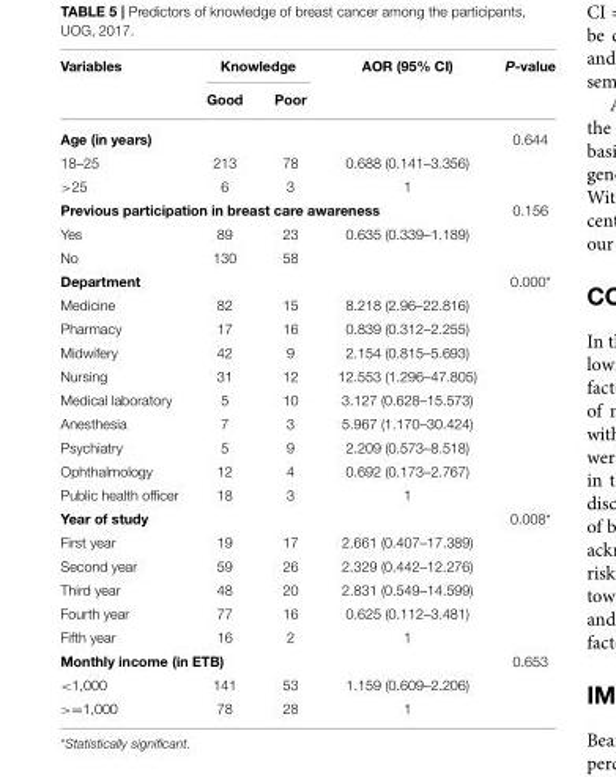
<table><thead><tr><td rowspan="2">Variables</td><td colspan="2">Knowledge</td><td rowspan="2">AOR (95% CI)</td><td rowspan="2">P-value</td></tr><tr><td>Good</td><td>Poor</td></tr></thead><tbody><tr><td colspan="4">Age (in years)</td><td>0.644</td></tr><tr><td>18–25</td><td>213</td><td>78</td><td>0.688 (0.141–3.356)</td><td></td></tr><tr><td>&gt;25</td><td>6</td><td>3</td><td>1</td><td></td></tr><tr><td colspan="4">Previous participation in breast care awareness</td><td>0.156</td></tr><tr><td>Yes</td><td>89</td><td>23</td><td>0.635 (0.339–1.189)</td><td></td></tr><tr><td>No</td><td>130</td><td>58</td><td></td><td></td></tr><tr><td colspan="4">Department</td><td>0.000*</td></tr><tr><td>Medicine</td><td>82</td><td>15</td><td>8.218 (2.96–22.816)</td><td></td></tr><tr><td>Pharmacy</td><td>17</td><td>16</td><td>0.839 (0.312–2.255)</td><td></td></tr><tr><td>Midwifery</td><td>42</td><td>9</td><td>2.154 (0.815–5.693)</td><td></td></tr><tr><td>Nursing</td><td>31</td><td>12</td><td>12.553 (1.296–47.805)</td><td></td></tr><tr><td>Medical laboratory</td><td>5</td><td>10</td><td>3.127 (0.628–15.573)</td><td></td></tr><tr><td>Anesthesia</td><td>7</td><td>3</td><td>5.967 (1.170–30.424)</td><td></td></tr><tr><td>Psychiatry</td><td>5</td><td>9</td><td>2.209 (0.573–8.518)</td><td></td></tr><tr><td>Ophthalmology</td><td>12</td><td>4</td><td>0.692 (0.173–2.767)</td><td></td></tr><tr><td>Public health officer</td><td>18</td><td>3</td><td>1</td><td></td></tr><tr><td>Year of study</td><td></td><td></td><td></td><td>0.008*</td></tr><tr><td>First year</td><td>19</td><td>17</td><td>2.661 (0.407–17.389)</td><td></td></tr><tr><td>Second year</td><td>59</td><td>26</td><td>2.329 (0.442–12.276)</td><td></td></tr><tr><td>Third year</td><td>48</td><td>20</td><td>2.831 (0.549–14.599)</td><td></td></tr><tr><td>Fourth year</td><td>77</td><td>16</td><td>0.625 (0.112–3.481)</td><td></td></tr><tr><td>Fifth year</td><td>16</td><td>2</td><td>1</td><td></td></tr><tr><td colspan="4">Monthly income (in ETB)</td><td>0.653</td></tr><tr><td>&lt;1,000</td><td>141</td><td>53</td><td>1.159 (0.609–2.206)</td><td></td></tr><tr><td>&gt;=1,000</td><td>78</td><td>28</td><td>1</td><td></td></tr></tbody></table>